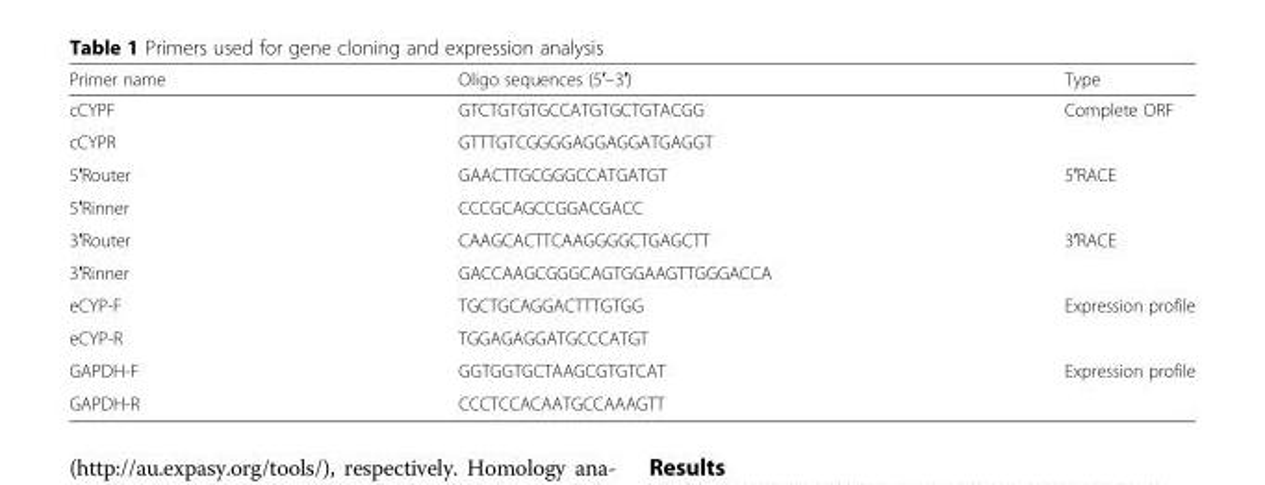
<table><thead><tr><td>Primer name</td><td>Oligo sequences (5′–3′)</td><td>Type</td></tr></thead><tbody><tr><td>cCYPF</td><td>GTCTGTGTGCCATGTGCTGTACGG</td><td rowspan="2">Complete ORF</td></tr><tr><td>cCYPR</td><td>GTTTGTCGGGGAGGAGGATGAGGT</td></tr><tr><td>5′Router</td><td>GAACTTGCGGGCCATGATGT</td><td rowspan="2">5′RACE</td></tr><tr><td>5′Rinner</td><td>CCCGCAGCCGGACGACC</td></tr><tr><td>3′Router</td><td>CAAGCACTTCAAGGGGCTGAGCTT</td><td rowspan="2">3′RACE</td></tr><tr><td>3′Rinner</td><td>GACCAAGCGGGCAGTGGAAGTTGGGACCA</td></tr><tr><td>eCYP-F</td><td>TGCTGCAGGACTTTGTGG</td><td rowspan="2">Expression profile</td></tr><tr><td>eCYP-R</td><td>TGGAGAGGATGCCCATGT</td></tr><tr><td>GAPDH-F</td><td>GGTGGTGCTAAGCGTGTCAT</td><td rowspan="2">Expression profile</td></tr><tr><td>GAPDH-R</td><td>CCCTCCACAATGCCAAAGTT</td></tr></tbody></table>